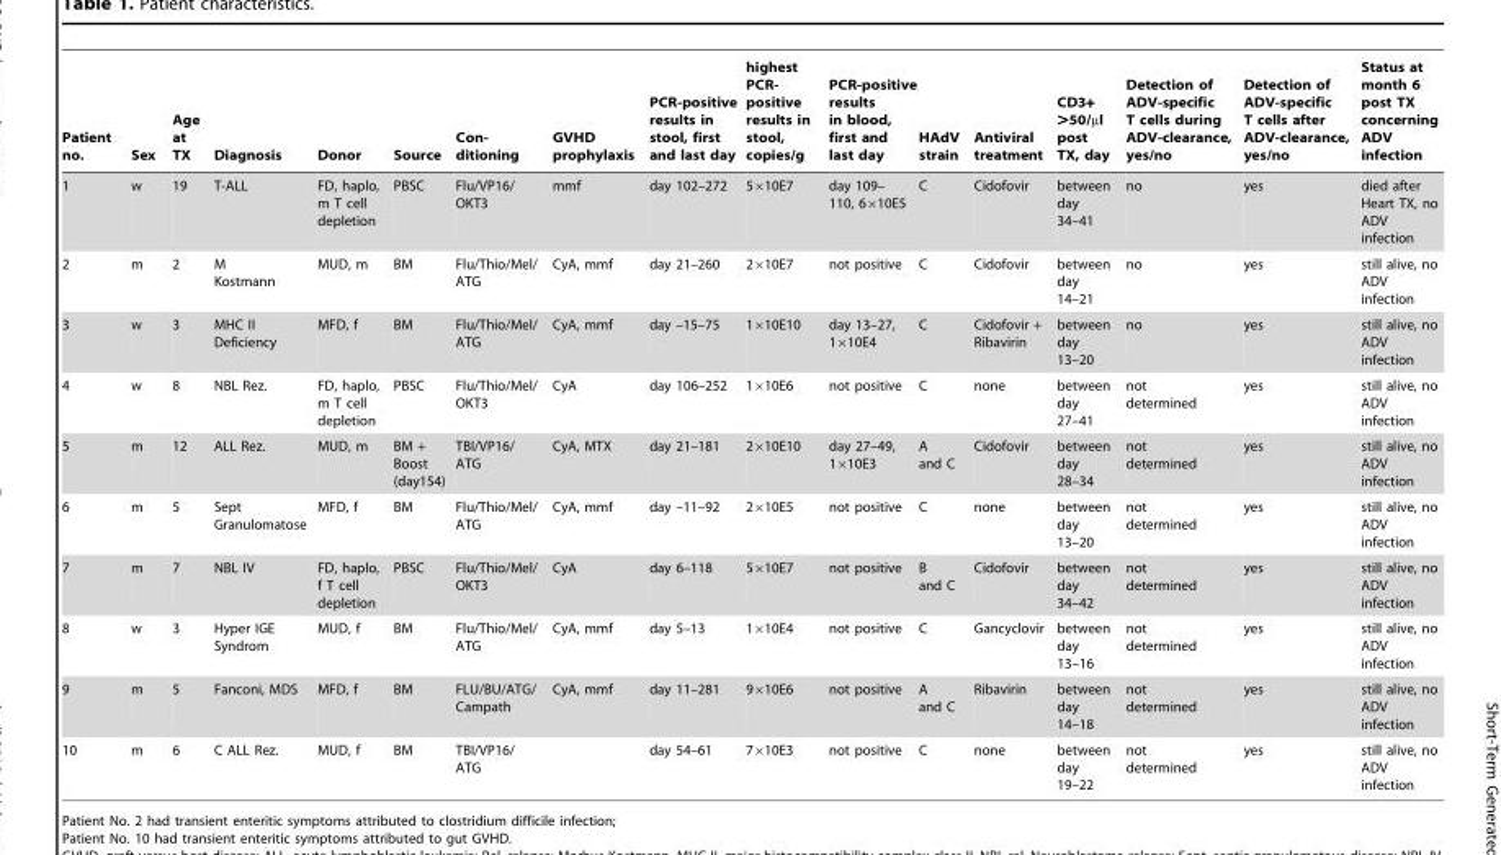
<table><thead><tr><td>Patient no.</td><td>Sex</td><td>Age at TX</td><td>Diagnosis</td><td>Donor</td><td>Source</td><td>Con- ditioning</td><td>GVHD prophylaxis</td><td>PCR-positive results in stool, first and last day</td><td>highest PCR- positive results in stool, copies/g</td><td>PCR-positive results in blood, first and last day</td><td>HAdV strain</td><td>Antiviral treatment</td><td>CD3+ &gt;50/µl post TX, day</td><td>Detection of ADV-specific T cells during ADV-clearance, yes/no</td><td>Detection of ADV-specific T cells after ADV-clearance, yes/no</td><td>Status at month 6 post TX concerning ADV infection</td></tr></thead><tbody><tr><td>1</td><td>w</td><td>19</td><td>T-ALL</td><td>FD, haplo, m T cell depletion</td><td>PBSC</td><td>Flu/VP16/ OKT3</td><td>mmf</td><td>day 102–272</td><td>5×10E7</td><td>day 109– 110, 6×10E5</td><td>C</td><td>Cidofovir</td><td>between day 34–41</td><td>no</td><td>yes</td><td>died after Heart TX, no ADV infection</td></tr><tr><td>2</td><td>m</td><td>2</td><td>M Kostmann</td><td>MUD, m</td><td>BM</td><td>Flu/Thio/Mel/ ATG</td><td>CyA, mmf</td><td>day 21–260</td><td>2×10E7</td><td>not positive</td><td>C</td><td>Cidofovir</td><td>between day 14–21</td><td>no</td><td>yes</td><td>still alive, no ADV infection</td></tr><tr><td>3</td><td>w</td><td>3</td><td>MHC II Deficiency</td><td>MFD, f</td><td>BM</td><td>Flu/Thio/Mel/ ATG</td><td>CyA, mmf</td><td>day –15–75</td><td>1×10E10</td><td>day 13–27, 1×10E4</td><td>C</td><td>Cidofovir + Ribavirin</td><td>between day 13–20</td><td>no</td><td>yes</td><td>still alive, no ADV infection</td></tr><tr><td>4</td><td>w</td><td>8</td><td>NBL Rez.</td><td>FD, haplo, m T cell depletion</td><td>PBSC</td><td>Flu/Thio/Mel/ OKT3</td><td>CyA</td><td>day 106–252</td><td>1×10E6</td><td>not positive</td><td>C</td><td>none</td><td>between day 27–41</td><td>not determined</td><td>yes</td><td>still alive, no ADV infection</td></tr><tr><td>5</td><td>m</td><td>12</td><td>ALL Rez.</td><td>MUD, m</td><td>BM + Boost (day154)</td><td>TBI/VP16/ ATG</td><td>CyA, MTX</td><td>day 21–181</td><td>2×10E10</td><td>day 27–49, 1×10E3</td><td>A and C</td><td>Cidofovir</td><td>between day 28–34</td><td>not determined</td><td>yes</td><td>still alive, no ADV infection</td></tr><tr><td>6</td><td>m</td><td>5</td><td>Sept Granulomatose</td><td>MFD, f</td><td>BM</td><td>Flu/Thio/Mel/ ATG</td><td>CyA, mmf</td><td>day –11–92</td><td>2×10E5</td><td>not positive</td><td>C</td><td>none</td><td>between day 13–20</td><td>not determined</td><td>yes</td><td>still alive, no ADV infection</td></tr><tr><td>7</td><td>m</td><td>7</td><td>NBL IV</td><td>FD, haplo, f T cell depletion</td><td>PBSC</td><td>Flu/Thio/Mel/ OKT3</td><td>CyA</td><td>day 6–118</td><td>5×10E7</td><td>not positive</td><td>B and C</td><td>Cidofovir</td><td>between day 34–42</td><td>not determined</td><td>yes</td><td>still alive, no ADV infection</td></tr><tr><td>8</td><td>w</td><td>3</td><td>Hyper IGE Syndrom</td><td>MUD, f</td><td>BM</td><td>Flu/Thio/Mel/ ATG</td><td>CyA, mmf</td><td>day 5–13</td><td>1×10E4</td><td>not positive</td><td>C</td><td>Gancyclovir</td><td>between day 13–16</td><td>not determined</td><td>yes</td><td>still alive, no ADV infection</td></tr><tr><td>9</td><td>m</td><td>5</td><td>Fanconi, MDS</td><td>MFD, f</td><td>BM</td><td>FLU/BU/ATG/ Campath</td><td>CyA, mmf</td><td>day 11–281</td><td>9×10E6</td><td>not positive</td><td>A and C</td><td>Ribavirin</td><td>between day 14–18</td><td>not determined</td><td>yes</td><td>still alive, no ADV infection</td></tr><tr><td>10</td><td>m</td><td>6</td><td>C ALL Rez.</td><td>MUD, f</td><td>BM</td><td>TBI/VP16/ ATG</td><td></td><td>day 54–61</td><td>7×10E3</td><td>not positive</td><td>C</td><td>none</td><td>between day 19–22</td><td>not determined</td><td>yes</td><td>still alive, no ADV infection</td></tr></tbody></table>